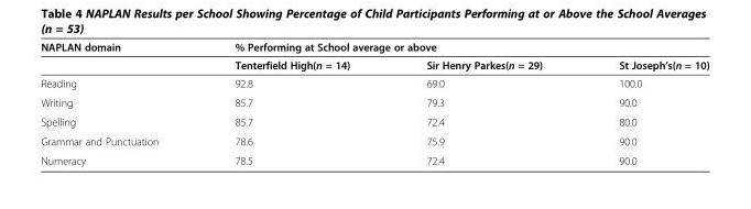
<table><thead><tr><td rowspan="2">NAPLAN domain</td><td colspan="3">% Performing at School average or above</td></tr><tr><td>Tenterfield High(n = 14)</td><td>Sir Henry Parkes(n = 29)</td><td>St Joseph’s(n = 10)</td></tr></thead><tbody><tr><td>Reading</td><td>92.8</td><td>69.0</td><td>100.0</td></tr><tr><td>Writing</td><td>85.7</td><td>79.3</td><td>90.0</td></tr><tr><td>Spelling</td><td>85.7</td><td>72.4</td><td>80.0</td></tr><tr><td>Grammar and Punctuation</td><td>78.6</td><td>75.9</td><td>90.0</td></tr><tr><td>Numeracy</td><td>78.5</td><td>72.4</td><td>90.0</td></tr></tbody></table>